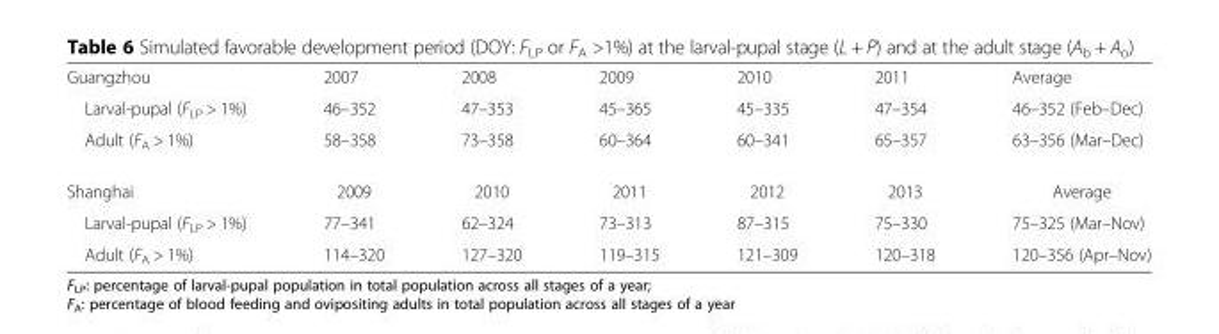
<table><tbody><tr><td>Guangzhou</td><td>2007</td><td>2008</td><td>2009</td><td>2010</td><td>2011</td><td>Average</td></tr><tr><td>Larval-pupal (F<sub>LP</sub> &gt; 1%)</td><td>46–352</td><td>47–353</td><td>45–365</td><td>45–335</td><td>47–354</td><td>46–352 (Feb–Dec)</td></tr><tr><td>Adult (F<sub>A</sub> &gt; 1%)</td><td>58–358</td><td>73–358</td><td>60–364</td><td>60–341</td><td>65–357</td><td>63–356 (Mar–Dec)</td></tr><tr><td>Shanghai</td><td>2009</td><td>2010</td><td>2011</td><td>2012</td><td>2013</td><td>Average</td></tr><tr><td>Larval-pupal (F<sub>LP</sub> &gt; 1%)</td><td>77–341</td><td>62–324</td><td>73–313</td><td>87–315</td><td>75–330</td><td>75–325 (Mar–Nov)</td></tr><tr><td>Adult (F<sub>A</sub> &gt; 1%)</td><td>114–320</td><td>127–320</td><td>119–315</td><td>121–309</td><td>120–318</td><td>120–356 (Apr–Nov)</td></tr></tbody></table>